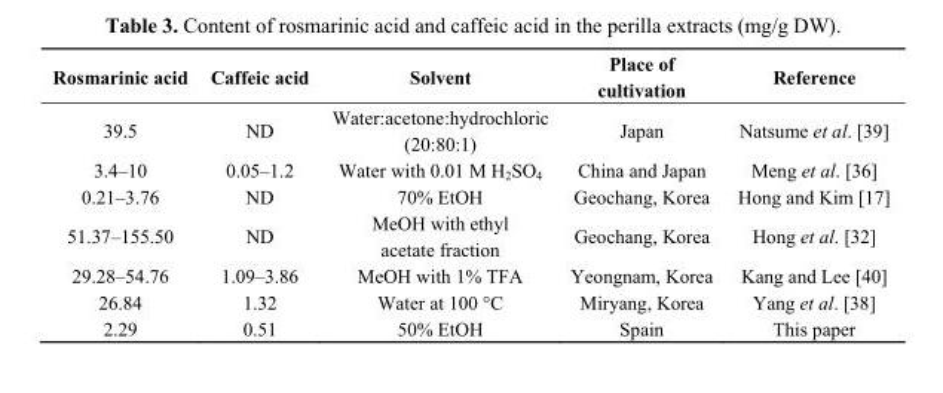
<table><thead><tr><td>Rosmarinic acid</td><td>Caffeic acid</td><td>Solvent</td><td>Place of cultivation</td><td>Reference</td></tr></thead><tbody><tr><td>39.5</td><td>ND</td><td>Water:acetone:hydrochloric (20:80:1)</td><td>Japan</td><td>Natsume et al. [39]</td></tr><tr><td>3.4–10</td><td>0.05–1.2</td><td>Water with 0.01 M H<sub>2</sub>SO<sub>4</sub></td><td>China and Japan</td><td>Meng et al. [36]</td></tr><tr><td>0.21–3.76</td><td>ND</td><td>70% EtOH</td><td>Geochang, Korea</td><td>Hong and Kim [17]</td></tr><tr><td>51.37–155.50</td><td>ND</td><td>MeOH with ethyl acetate fraction</td><td>Geochang, Korea</td><td>Hong et al. [32]</td></tr><tr><td>29.28–54.76</td><td>1.09–3.86</td><td>MeOH with 1% TFA</td><td>Yeongnam, Korea</td><td>Kang and Lee [40]</td></tr><tr><td>26.84</td><td>1.32</td><td>Water at 100 °C</td><td>Miryang, Korea</td><td>Yang et al. [38]</td></tr><tr><td>2.29</td><td>0.51</td><td>50% EtOH</td><td>Spain</td><td>This paper</td></tr></tbody></table>